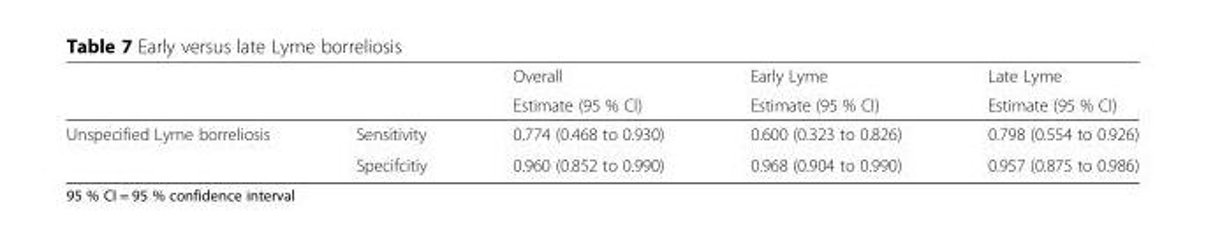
<table><thead><tr><td rowspan="2"></td><td rowspan="2"></td><td rowspan="2">Overall Estimate (95 % CI)</td><td rowspan="2">Early Lyme Estimate (95 % CI)</td><td rowspan="2">Late Lyme Estimate (95 % CI)</td></tr><tr></tr></thead><tbody><tr><td rowspan="2">Unspecified Lyme borreliosis</td><td>Sensitivity</td><td>0.774 (0.468 to 0.930)</td><td>0.600 (0.323 to 0.826)</td><td>0.798 (0.554 to 0.926)</td></tr><tr><td>Specifcitiy</td><td>0.960 (0.852 to 0.990)</td><td>0.968 (0.904 to 0.990)</td><td>0.957 (0.875 to 0.986)</td></tr></tbody></table>